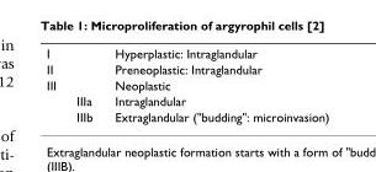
<table><tbody><tr><td>I</td><td></td><td>Hyperplastic: Intraglandular</td></tr><tr><td>II</td><td></td><td>Preneoplastic: Intraglandular</td></tr><tr><td rowspan="3">III</td><td></td><td>Neoplastic</td></tr><tr><td>IIIa</td><td>Intraglandular</td></tr><tr><td>IIIb</td><td>Extraglandular (&quot;budding&quot;: microinvasion)</td></tr></tbody></table>